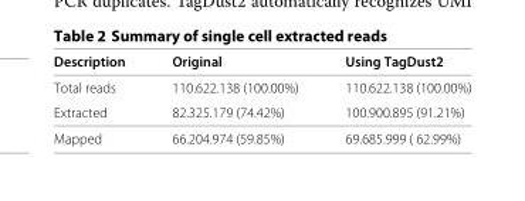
<table><thead><tr><td>Description</td><td>Original</td><td>Using TagDust2</td></tr></thead><tbody><tr><td>Total reads</td><td>110.622.138 (100.00%)</td><td>110.622.138 (100.00%)</td></tr><tr><td>Extracted</td><td>82.325.179 (74.42%)</td><td>100.900.895 (91.21%)</td></tr><tr><td>Mapped</td><td>66.204.974 (59.85%)</td><td>69.685.999 ( 62.99%)</td></tr></tbody></table>